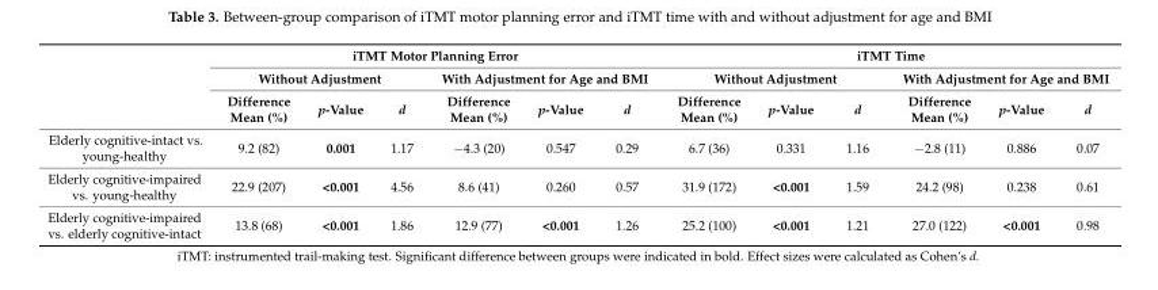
<table><thead><tr><td rowspan="3"></td><td colspan="6">iTMT Motor Planning Error</td><td colspan="6">iTMT Time</td></tr><tr><td colspan="3">Without Adjustment</td><td colspan="3">With Adjustment for Age and BMI</td><td colspan="3">Without Adjustment</td><td colspan="3">With Adjustment for Age and BMI</td></tr><tr><td>Difference Mean (%)</td><td>p-Value</td><td>d</td><td>Difference Mean (%)</td><td>p-Value</td><td>d</td><td>Difference Mean (%)</td><td>p-Value</td><td>d</td><td>Difference Mean (%)</td><td>p-Value</td><td>d</td></tr></thead><tbody><tr><td>Elderly cognitive-intact vs. young-healthy</td><td>9.2 (82)</td><td>0.001</td><td>1.17</td><td>−4.3 (20)</td><td>0.547</td><td>0.29</td><td>6.7 (36)</td><td>0.331</td><td>1.16</td><td>−2.8 (11)</td><td>0.886</td><td>0.07</td></tr><tr><td>Elderly cognitive-impaired vs. young-healthy</td><td>22.9 (207)</td><td>&lt;0.001</td><td>4.56</td><td>8.6 (41)</td><td>0.260</td><td>0.57</td><td>31.9 (172)</td><td>&lt;0.001</td><td>1.59</td><td>24.2 (98)</td><td>0.238</td><td>0.61</td></tr><tr><td>Elderly cognitive-impaired vs. elderly cognitive-intact</td><td>13.8 (68)</td><td>&lt;0.001</td><td>1.86</td><td>12.9 (77)</td><td>&lt;0.001</td><td>1.26</td><td>25.2 (100)</td><td>&lt;0.001</td><td>1.21</td><td>27.0 (122)</td><td>&lt;0.001</td><td>0.98</td></tr></tbody></table>